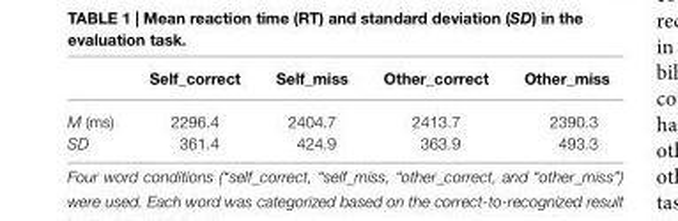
<table><thead><tr><td></td><td>Self_correct</td><td>Self_miss</td><td>Other_correct</td><td>Other_miss</td></tr></thead><tbody><tr><td>M (ms)</td><td>2296.4</td><td>2404.7</td><td>2413.7</td><td>2390.3</td></tr><tr><td>SD</td><td>361.4</td><td>424.9</td><td>363.9</td><td>493.3</td></tr></tbody></table>